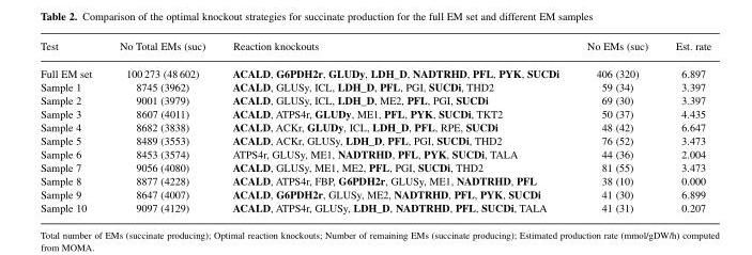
<table><thead><tr><td>Test</td><td>No Total EMs (suc)</td><td>Reaction knockouts</td><td>No EMs (suc)</td><td>Est. rate</td></tr></thead><tbody><tr><td>Full EM set</td><td>100 273 (48 602)</td><td>ACALD, G6PDH2r, GLUDy, LDH_D, NADTRHD, PFL, PYK, SUCDi</td><td>406 (320)</td><td>6.897</td></tr><tr><td>Sample 1</td><td>8745 (3962)</td><td>ACALD, GLUSy, ICL, LDH_D, PFL, PGI, SUCDi, THD2</td><td>59 (34)</td><td>3.397</td></tr><tr><td>Sample 2</td><td>9001 (3979)</td><td>ACALD, GLUSy, ICL, LDH_D, ME2, PFL, PGI, SUCDi</td><td>69 (30)</td><td>3.397</td></tr><tr><td>Sample 3</td><td>8607 (4011)</td><td>ACALD, ATPS4r, GLUDy, ME1, PFL, PYK, SUCDi, TKT2</td><td>50 (37)</td><td>4.435</td></tr><tr><td>Sample 4</td><td>8682 (3838)</td><td>ACALD, ACKr, GLUDy, ICL, LDH_D, PFL, RPE, SUCDi</td><td>48 (42)</td><td>6.647</td></tr><tr><td>Sample 5</td><td>8489 (3553)</td><td>ACALD, ACKr, GLUSy, LDH_D, PFL, PGI, SUCDi, THD2</td><td>76 (52)</td><td>3.473</td></tr><tr><td>Sample 6</td><td>8453 (3574)</td><td>ATPS4r, GLUSy, ME1, NADTRHD, PFL, PYK, SUCDi, TALA</td><td>44 (36)</td><td>2.004</td></tr><tr><td>Sample 7</td><td>9056 (4080)</td><td>ACALD, GLUSy, ME1, ME2, PFL, PGI, SUCDi, THD2</td><td>81 (55)</td><td>3.473</td></tr><tr><td>Sample 8</td><td>8877 (4228)</td><td>ACALD, ATPS4r, FBP, G6PDH2r, GLUSy, ME1, NADTRHD, PFL</td><td>38 (10)</td><td>0.000</td></tr><tr><td>Sample 9</td><td>8647 (4007)</td><td>ACALD, G6PDH2r, GLUSy, ME2, NADTRHD, PFL, PYK, SUCDi</td><td>41 (30)</td><td>6.899</td></tr><tr><td>Sample 10</td><td>9097 (4129)</td><td>ACALD, ATPS4r, GLUSy, LDH_D, NADTRHD, PFL, SUCDi, TALA</td><td>41 (31)</td><td>0.207</td></tr></tbody></table>